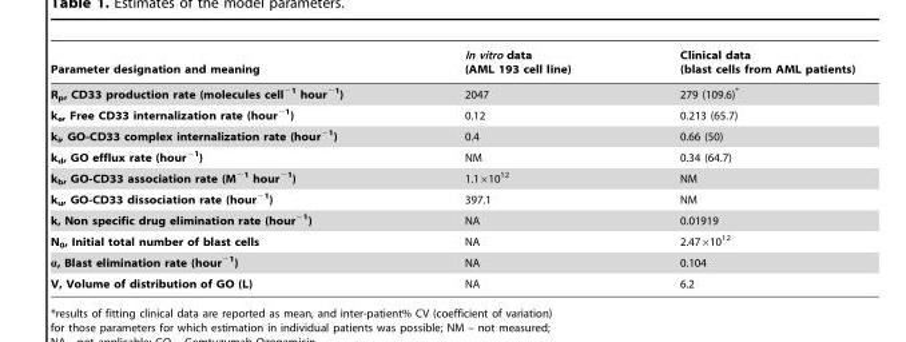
<table><thead><tr><td>Parameter designation and meaning</td><td>In vitro data (AML 193 cell line)</td><td>Clinical data (blast cells from AML patients)</td></tr></thead><tbody><tr><td>R<sub>p</sub>, CD33 production rate (molecules cell<sup>−1</sup> hour<sup>−1</sup>)</td><td>2047</td><td>279 (109.6)*</td></tr><tr><td>k<sub>e</sub>, Free CD33 internalization rate (hour<sup>−1</sup>)</td><td>0.12</td><td>0.213 (65.7)</td></tr><tr><td>k<sub>i</sub>, GO-CD33 complex internalization rate (hour<sup>−1</sup>)</td><td>0.4</td><td>0.66 (50)</td></tr><tr><td>k<sub>d</sub>, GO efflux rate (hour<sup>−1</sup>)</td><td>NM</td><td>0.34 (64.7)</td></tr><tr><td>k<sub>b</sub>, GO-CD33 association rate (M<sup>−1</sup> hour<sup>−1</sup>)</td><td>1.1×10<sup>12</sup></td><td>NM</td></tr><tr><td>k<sub>u</sub>, GO-CD33 dissociation rate (hour<sup>−1</sup>)</td><td>397.1</td><td>NM</td></tr><tr><td>k, Non specific drug elimination rate (hour<sup>−1</sup>)</td><td>NA</td><td>0.01919</td></tr><tr><td>N<sub>0</sub>, Initial total number of blast cells</td><td>NA</td><td>2.47×10<sup>12</sup></td></tr><tr><td>α, Blast elimination rate (hour<sup>−1</sup>)</td><td>NA</td><td>0.104</td></tr><tr><td>V, Volume of distribution of GO (L)</td><td>NA</td><td>6.2</td></tr></tbody></table>